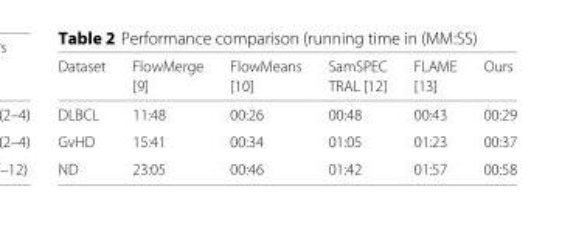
<table><thead><tr><td rowspan="2">Dataset</td><td rowspan="2">FlowMerge [9]</td><td rowspan="2">FlowMeans [10]</td><td rowspan="2">SamSPEC TRAL [12]</td><td rowspan="2">FLAME [13]</td><td rowspan="2">Ours</td></tr><tr></tr></thead><tbody><tr><td>DLBCL</td><td>11:48</td><td>00:26</td><td>00:48</td><td>00:43</td><td>00:29</td></tr><tr><td>GvHD</td><td>15:41</td><td>00:34</td><td>01:05</td><td>01:23</td><td>00:37</td></tr><tr><td>ND</td><td>23:05</td><td>00:46</td><td>01:42</td><td>01:57</td><td>00:58</td></tr></tbody></table>